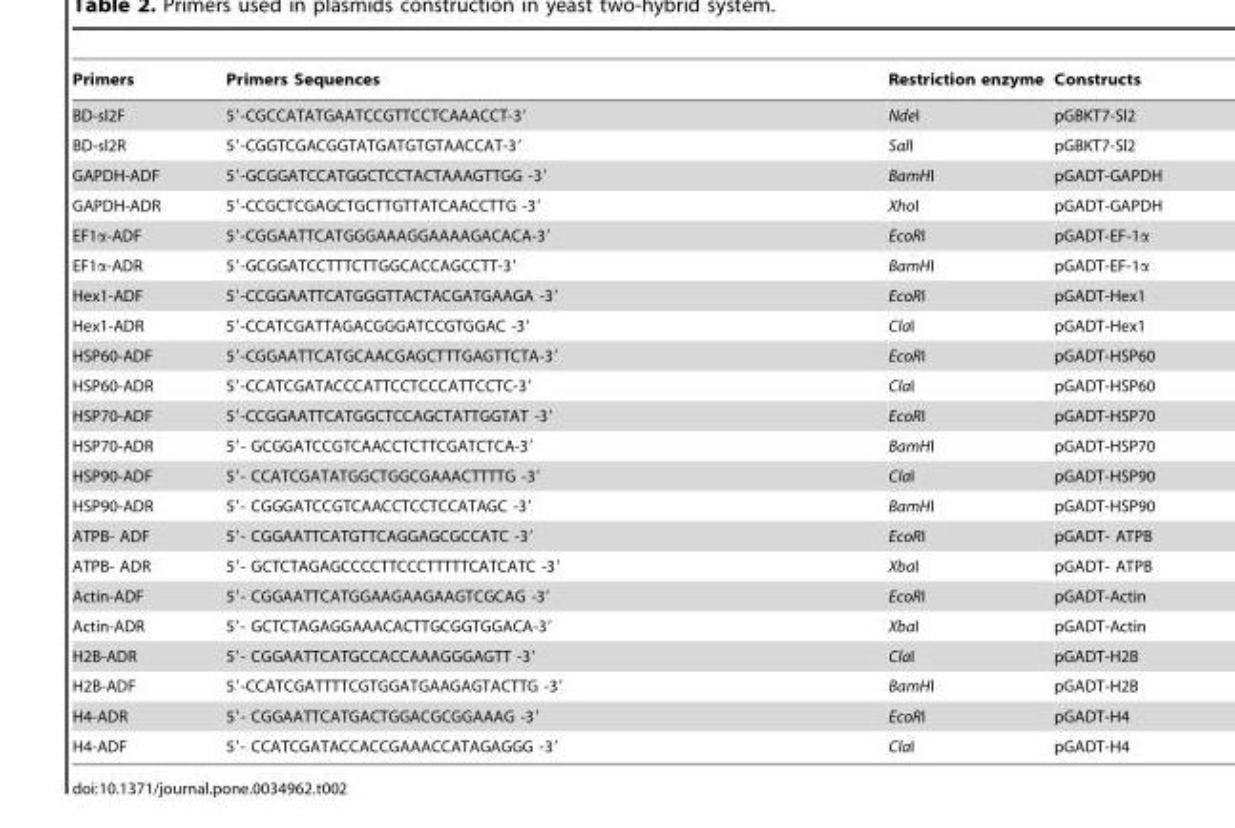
<table><thead><tr><td>Primers</td><td>Primers Sequences</td><td>Restriction enzyme</td><td>Constructs</td></tr></thead><tbody><tr><td>BD-sl2F</td><td>5′-CGCCATATGAATCCGTTCCTCAAACCT-3′</td><td>NdeI</td><td>pGBKT7-Sl2</td></tr><tr><td>BD-sl2R</td><td>5′-CGGTCGACGGTATGATGTGTAACCAT-3′</td><td>SalI</td><td>pGBKT7-Sl2</td></tr><tr><td>GAPDH-ADF</td><td>5′-GCGGATCCATGGCTCCTACTAAAGTTGG -3′</td><td>BamHI</td><td>pGADT-GAPDH</td></tr><tr><td>GAPDH-ADR</td><td>5′-CCGCTCGAGCTGCTTGTTATCAACCTTG -3′</td><td>XhoI</td><td>pGADT-GAPDH</td></tr><tr><td>EF1α-ADF</td><td>5′-CGGAATTCATGGGAAAGGAAAAGACACA-3′</td><td>EcoRI</td><td>pGADT-EF-1α</td></tr><tr><td>EF1α-ADR</td><td>5′-GCGGATCCTTTCTTGGCACCAGCCTT-3′</td><td>BamHI</td><td>pGADT-EF-1α</td></tr><tr><td>Hex1-ADF</td><td>5′-CCGGAATTCATGGGTTACTACGATGAAGA -3′</td><td>EcoRI</td><td>pGADT-Hex1</td></tr><tr><td>Hex1-ADR</td><td>5′-CCATCGATTAGACGGGATCCGTGGAC -3′</td><td>ClaI</td><td>pGADT-Hex1</td></tr><tr><td>HSP60-ADF</td><td>5′-CGGAATTCATGCAACGAGCTTTGAGTTCTA-3′</td><td>EcoRI</td><td>pGADT-HSP60</td></tr><tr><td>HSP60-ADR</td><td>5′-CCATCGATACCCATTCCTCCCATTCCTC-3′</td><td>ClaI</td><td>pGADT-HSP60</td></tr><tr><td>HSP70-ADF</td><td>5′-CCGGAATTCATGGCTCCAGCTATTGGTAT -3′</td><td>EcoRI</td><td>pGADT-HSP70</td></tr><tr><td>HSP70-ADR</td><td>5′- GCGGATCCGTCAACCTCTTCGATCTCA-3′</td><td>BamHI</td><td>pGADT-HSP70</td></tr><tr><td>HSP90-ADF</td><td>5′- CCATCGATATGGCTGGCGAAACTTTTG -3′</td><td>ClaI</td><td>pGADT-HSP90</td></tr><tr><td>HSP90-ADR</td><td>5′- CGGGATCCGTCAACCTCCTCCATAGC -3′</td><td>BamHI</td><td>pGADT-HSP90</td></tr><tr><td>ATPB- ADF</td><td>5′- CGGAATTCATGTTCAGGAGCGCCATC -3′</td><td>EcoRI</td><td>pGADT- ATPB</td></tr><tr><td>ATPB- ADR</td><td>5′- GCTCTAGAGCCCCTTCCCTTTTTCATCATC -3′</td><td>XbaI</td><td>pGADT- ATPB</td></tr><tr><td>Actin-ADF</td><td>5′- CGGAATTCATGGAAGAAGAAGTCGCAG -3′</td><td>EcoRI</td><td>pGADT-Actin</td></tr><tr><td>Actin-ADR</td><td>5′- GCTCTAGAGGAAACACTTGCGGTGGACA-3′</td><td>XbaI</td><td>pGADT-Actin</td></tr><tr><td>H2B-ADR</td><td>5′- CGGAATTCATGCCACCAAAGGGAGTT -3′</td><td>ClaI</td><td>pGADT-H2B</td></tr><tr><td>H2B-ADF</td><td>5′-CCATCGATTTTCGTGGATGAAGAGTACTTG -3′</td><td>BamHI</td><td>pGADT-H2B</td></tr><tr><td>H4-ADR</td><td>5′- CGGAATTCATGACTGGACGCGGAAAG -3′</td><td>EcoRI</td><td>pGADT-H4</td></tr><tr><td>H4-ADF</td><td>5′- CCATCGATACCACCGAAACCATAGAGGG -3′</td><td>ClaI</td><td>pGADT-H4</td></tr></tbody></table>